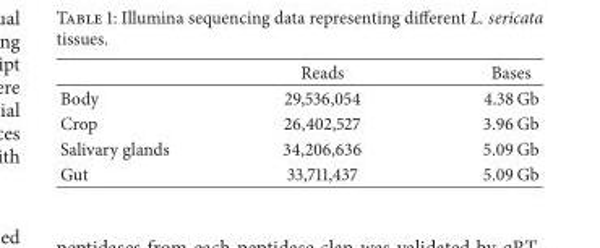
<table><thead><tr><td></td><td>Reads</td><td>Bases</td></tr></thead><tbody><tr><td>Body</td><td>29,536,054</td><td>4.38 Gb</td></tr><tr><td>Crop</td><td>26,402,527</td><td>3.96 Gb</td></tr><tr><td>Salivary glands</td><td>34,206,636</td><td>5.09 Gb</td></tr><tr><td>Gut</td><td>33,711,437</td><td>5.09 Gb</td></tr></tbody></table>